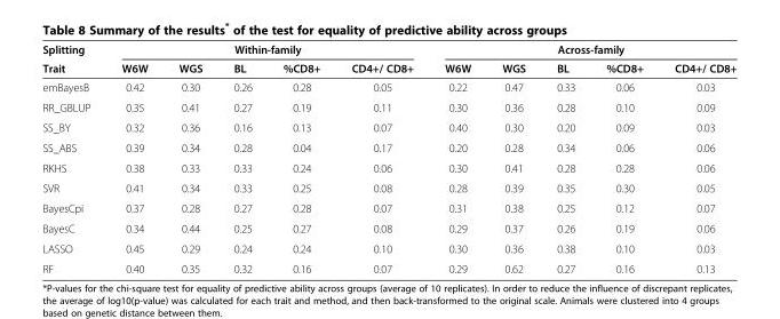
<table><thead><tr><td rowspan="2">Splitting Trait</td><td colspan="5">Within-family</td><td colspan="5">Across-family</td></tr><tr><td>W6W</td><td>WGS</td><td>BL</td><td>%CD8+</td><td>CD4+/ CD8+</td><td>W6W</td><td>WGS</td><td>BL</td><td>%CD8+</td><td>CD4+/ CD8+</td></tr></thead><tbody><tr><td>emBayesB</td><td>0.42</td><td>0.30</td><td>0.26</td><td>0.28</td><td>0.05</td><td>0.22</td><td>0.47</td><td>0.33</td><td>0.06</td><td>0.03</td></tr><tr><td>RR_GBLUP</td><td>0.35</td><td>0.41</td><td>0.27</td><td>0.19</td><td>0.11</td><td>0.30</td><td>0.36</td><td>0.28</td><td>0.10</td><td>0.09</td></tr><tr><td>SS_BY</td><td>0.32</td><td>0.36</td><td>0.16</td><td>0.13</td><td>0.07</td><td>0.40</td><td>0.30</td><td>0.20</td><td>0.09</td><td>0.03</td></tr><tr><td>SS_ABS</td><td>0.39</td><td>0.34</td><td>0.28</td><td>0.04</td><td>0.17</td><td>0.20</td><td>0.28</td><td>0.34</td><td>0.06</td><td>0.06</td></tr><tr><td>RKHS</td><td>0.38</td><td>0.33</td><td>0.33</td><td>0.24</td><td>0.06</td><td>0.30</td><td>0.41</td><td>0.28</td><td>0.28</td><td>0.06</td></tr><tr><td>SVR</td><td>0.41</td><td>0.34</td><td>0.33</td><td>0.25</td><td>0.08</td><td>0.28</td><td>0.39</td><td>0.35</td><td>0.30</td><td>0.05</td></tr><tr><td>BayesCpi</td><td>0.37</td><td>0.28</td><td>0.27</td><td>0.28</td><td>0.07</td><td>0.31</td><td>0.38</td><td>0.25</td><td>0.12</td><td>0.07</td></tr><tr><td>BayesC</td><td>0.34</td><td>0.44</td><td>0.25</td><td>0.27</td><td>0.08</td><td>0.29</td><td>0.37</td><td>0.26</td><td>0.19</td><td>0.06</td></tr><tr><td>LASSO</td><td>0.45</td><td>0.29</td><td>0.24</td><td>0.24</td><td>0.10</td><td>0.30</td><td>0.36</td><td>0.38</td><td>0.10</td><td>0.03</td></tr><tr><td>RF</td><td>0.40</td><td>0.35</td><td>0.32</td><td>0.16</td><td>0.07</td><td>0.29</td><td>0.62</td><td>0.27</td><td>0.16</td><td>0.13</td></tr></tbody></table>